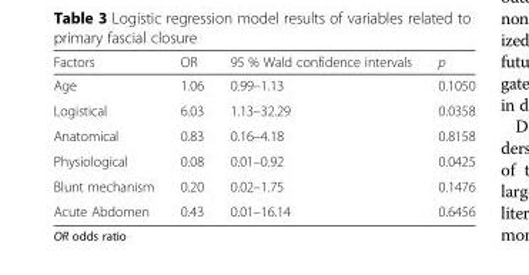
<table><thead><tr><td>Factors</td><td>OR</td><td>95 % Wald confidence intervals</td><td>p</td></tr></thead><tbody><tr><td>Age</td><td>1.06</td><td>0.99–1.13</td><td>0.1050</td></tr><tr><td>Logistical</td><td>6.03</td><td>1.13–32.29</td><td>0.0358</td></tr><tr><td>Anatomical</td><td>0.83</td><td>0.16–4.18</td><td>0.8158</td></tr><tr><td>Physiological</td><td>0.08</td><td>0.01–0.92</td><td>0.0425</td></tr><tr><td>Blunt mechanism</td><td>0.20</td><td>0.02–1.75</td><td>0.1476</td></tr><tr><td>Acute Abdomen</td><td>0.43</td><td>0.01–16.14</td><td>0.6456</td></tr></tbody></table>